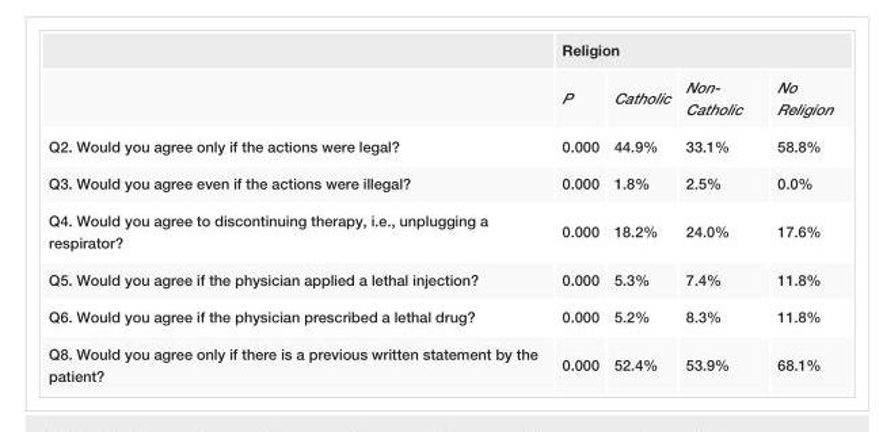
<table><thead><tr><td rowspan="2"></td><td colspan="4">Religion</td></tr><tr><td>P</td><td>Catholic</td><td>Non- Catholic</td><td>No Religion</td></tr></thead><tbody><tr><td>Q2. Would you agree only if the actions were legal?</td><td>0.000</td><td>44.9%</td><td>33.1%</td><td>58.8%</td></tr><tr><td>Q3. Would you agree even if the actions were illegal?</td><td>0.000</td><td>1.8%</td><td>2.5%</td><td>0.0%</td></tr><tr><td>Q4. Would you agree to discontinuing therapy, i.e., unplugging a respirator?</td><td>0.000</td><td>18.2%</td><td>24.0%</td><td>17.6%</td></tr><tr><td>Q5. Would you agree if the physician applied a lethal injection?</td><td>0.000</td><td>5.3%</td><td>7.4%</td><td>11.8%</td></tr><tr><td>Q6. Would you agree if the physician prescribed a lethal drug?</td><td>0.000</td><td>5.2%</td><td>8.3%</td><td>11.8%</td></tr><tr><td>Q8. Would you agree only if there is a previous written statement by the patient?</td><td>0.000</td><td>52.4%</td><td>53.9%</td><td>68.1%</td></tr></tbody></table>